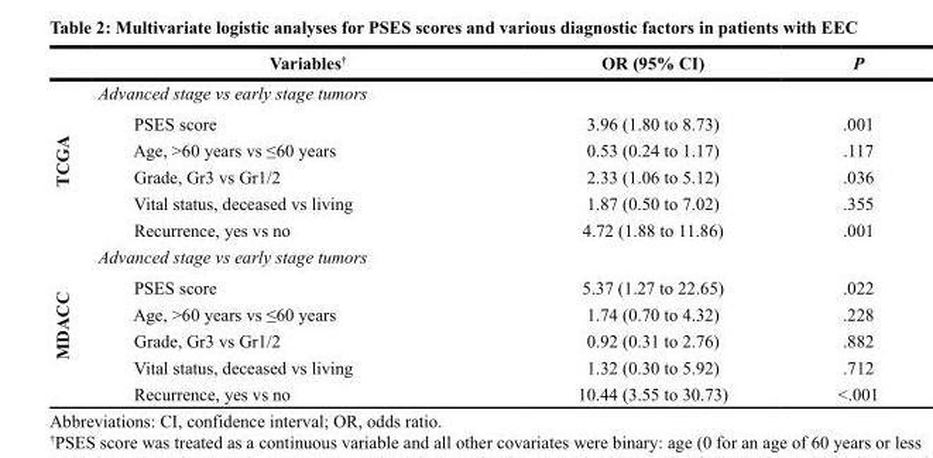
<table><thead><tr><td></td><td>Variables<sup>†</sup></td><td>OR (95% CI)</td><td>P</td></tr></thead><tbody><tr><td rowspan="6">TCGA</td><td>Advanced stage vs early stage tumors</td><td></td><td></td></tr><tr><td>PSES score</td><td>3.96 (1.80 to 8.73)</td><td>.001</td></tr><tr><td>Age, &gt;60 years vs ≤60 years</td><td>0.53 (0.24 to 1.17)</td><td>.117</td></tr><tr><td>Grade, Gr3 vs Gr1/2</td><td>2.33 (1.06 to 5.12)</td><td>.036</td></tr><tr><td>Vital status, deceased vs living</td><td>1.87 (0.50 to 7.02)</td><td>.355</td></tr><tr><td>Recurrence, yes vs no</td><td>4.72 (1.88 to 11.86)</td><td>.001</td></tr><tr><td rowspan="6">MDACC</td><td>Advanced stage vs early stage tumors</td><td></td><td></td></tr><tr><td>PSES score</td><td>5.37 (1.27 to 22.65)</td><td>.022</td></tr><tr><td>Age, &gt;60 years vs ≤60 years</td><td>1.74 (0.70 to 4.32)</td><td>.228</td></tr><tr><td>Grade, Gr3 vs Gr1/2</td><td>0.92 (0.31 to 2.76)</td><td>.882</td></tr><tr><td>Vital status, deceased vs living</td><td>1.32 (0.30 to 5.92)</td><td>.712</td></tr><tr><td>Recurrence, yes vs no</td><td>10.44 (3.55 to 30.73)</td><td>&lt;.001</td></tr></tbody></table>